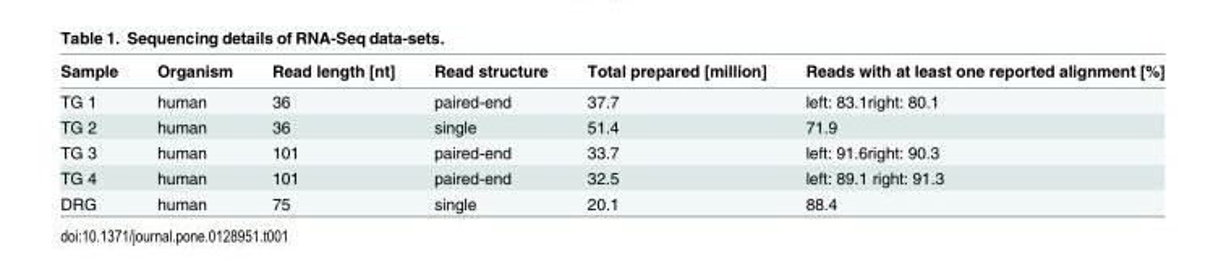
<table><thead><tr><td>Sample</td><td>Organism</td><td>Read length [nt]</td><td>Read structure</td><td>Total prepared [million]</td><td>Reads with at least one reported alignment [%]</td></tr></thead><tbody><tr><td>TG 1</td><td>human</td><td>36</td><td>paired-end</td><td>37.7</td><td>left: 83.1right: 80.1</td></tr><tr><td>TG 2</td><td>human</td><td>36</td><td>single</td><td>51.4</td><td>71.9</td></tr><tr><td>TG 3</td><td>human</td><td>101</td><td>paired-end</td><td>33.7</td><td>left: 91.6right: 90.3</td></tr><tr><td>TG 4</td><td>human</td><td>101</td><td>paired-end</td><td>32.5</td><td>left: 89.1 right: 91.3</td></tr><tr><td>DRG</td><td>human</td><td>75</td><td>single</td><td>20.1</td><td>88.4</td></tr></tbody></table>